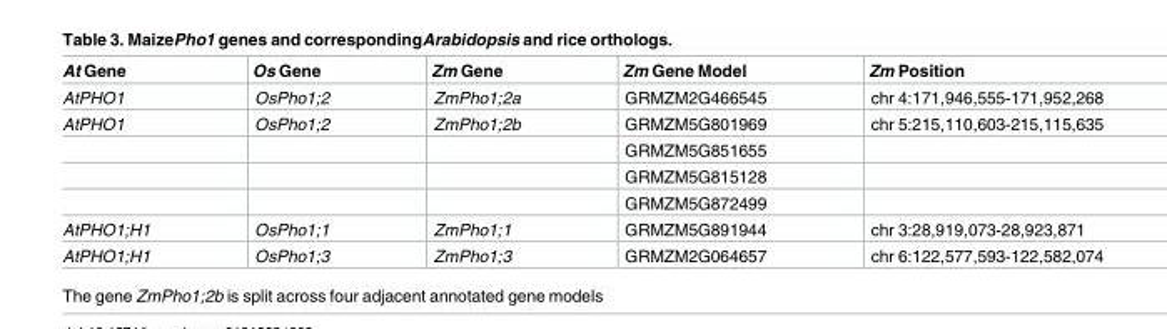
<table><thead><tr><td>At Gene</td><td>Os Gene</td><td>Zm Gene</td><td>Zm Gene Model</td><td>Zm Position</td></tr></thead><tbody><tr><td>AtPHO1</td><td>OsPho1;2</td><td>ZmPho1;2a</td><td>GRMZM2G466545</td><td>chr 4:171,946,555-171,952,268</td></tr><tr><td rowspan="4">AtPHO1</td><td>OsPho1;2</td><td>ZmPho1;2b</td><td>GRMZM5G801969</td><td>chr 5:215,110,603-215,115,635</td></tr><tr><td></td><td></td><td>GRMZM5G851655</td><td></td></tr><tr><td></td><td></td><td>GRMZM5G815128</td><td></td></tr><tr><td></td><td></td><td>GRMZM5G872499</td><td></td></tr><tr><td>AtPHO1;H1</td><td>OsPho1;1</td><td>ZmPho1;1</td><td>GRMZM5G891944</td><td>chr 3:28,919,073-28,923,871</td></tr><tr><td>AtPHO1;H1</td><td>OsPho1;3</td><td>ZmPho1;3</td><td>GRMZM2G064657</td><td>chr 6:122,577,593-122,582,074</td></tr></tbody></table>